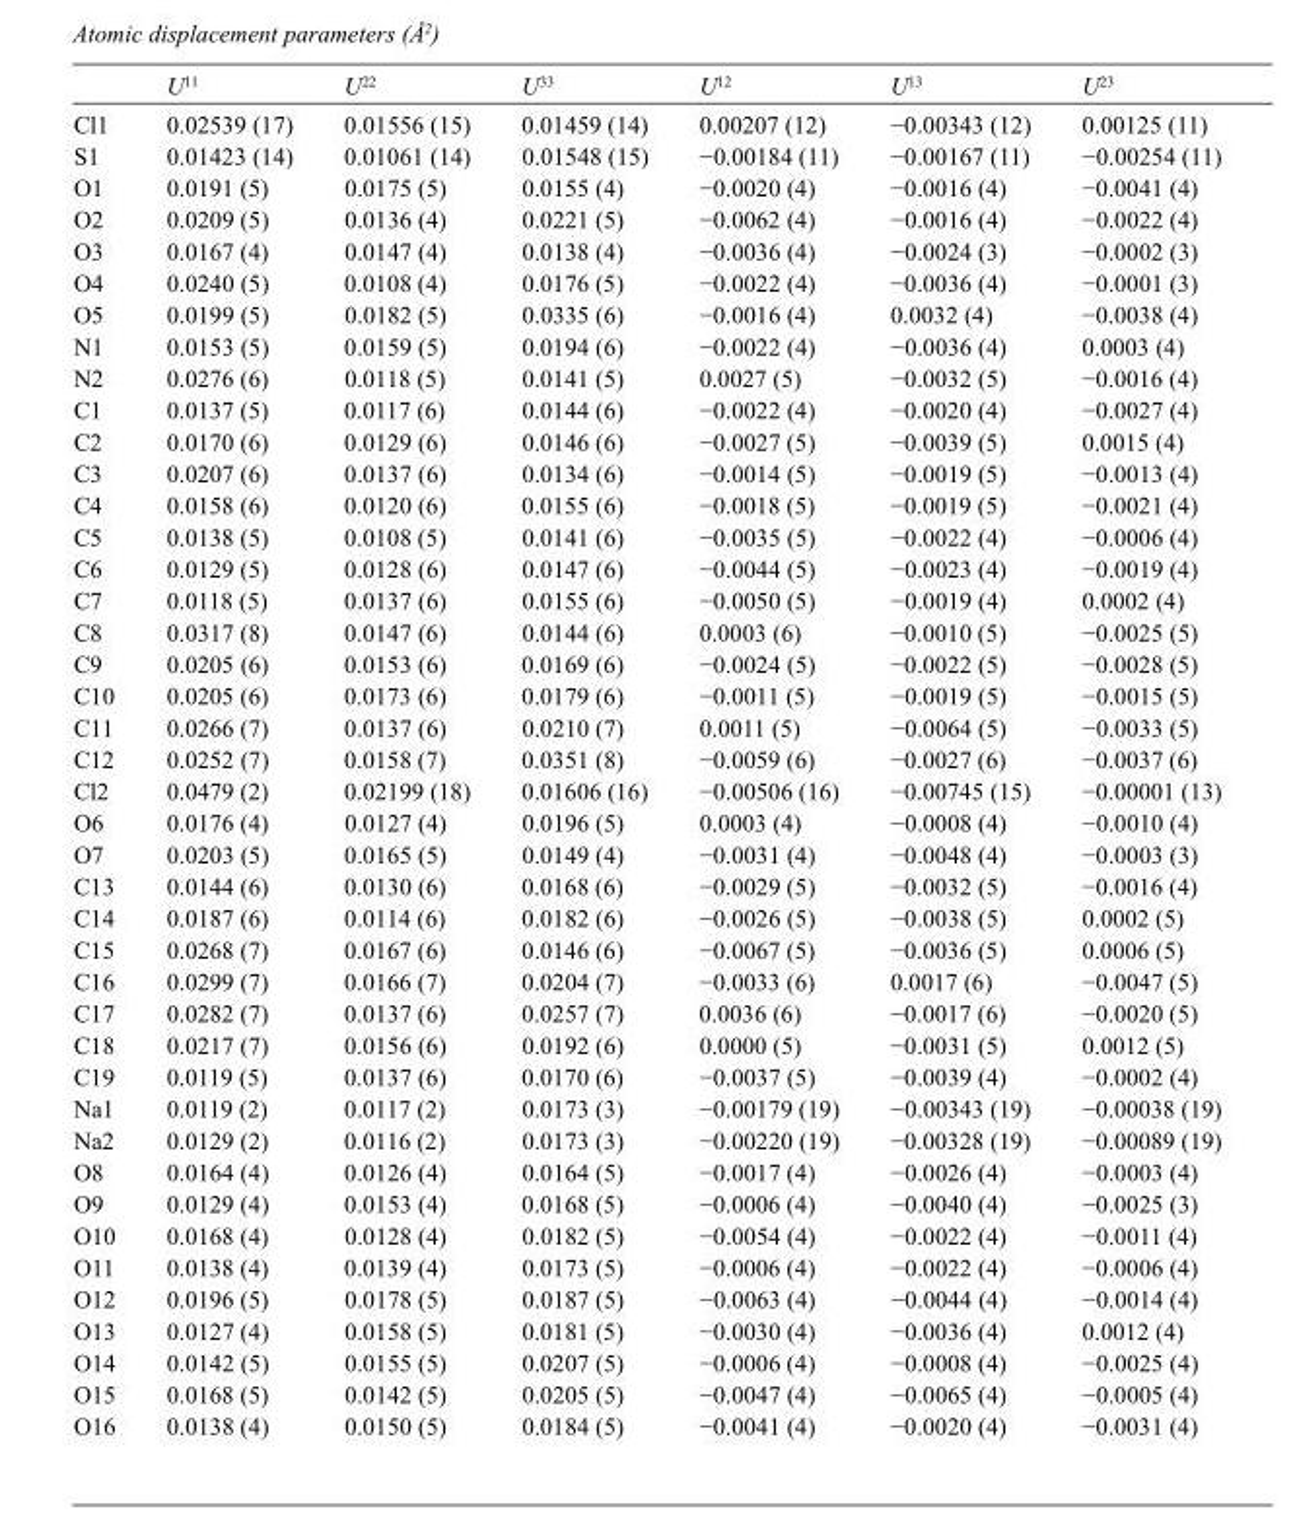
<table><thead><tr><td></td><td>U<sup>11</sup></td><td>U<sup>22</sup></td><td>U<sup>33</sup></td><td>U<sup>12</sup></td><td>U<sup>13</sup></td><td>U<sup>23</sup></td></tr></thead><tbody><tr><td>Cl1</td><td>0.02539 (17)</td><td>0.01556 (15)</td><td>0.01459 (14)</td><td>0.00207 (12)</td><td>−0.00343 (12)</td><td>0.00125 (11)</td></tr><tr><td>S1</td><td>0.01423 (14)</td><td>0.01061 (14)</td><td>0.01548 (15)</td><td>−0.00184 (11)</td><td>−0.00167 (11)</td><td>−0.00254 (11)</td></tr><tr><td>O1</td><td>0.0191 (5)</td><td>0.0175 (5)</td><td>0.0155 (4)</td><td>−0.0020 (4)</td><td>−0.0016 (4)</td><td>−0.0041 (4)</td></tr><tr><td>O2</td><td>0.0209 (5)</td><td>0.0136 (4)</td><td>0.0221 (5)</td><td>−0.0062 (4)</td><td>−0.0016 (4)</td><td>−0.0022 (4)</td></tr><tr><td>O3</td><td>0.0167 (4)</td><td>0.0147 (4)</td><td>0.0138 (4)</td><td>−0.0036 (4)</td><td>−0.0024 (3)</td><td>−0.0002 (3)</td></tr><tr><td>O4</td><td>0.0240 (5)</td><td>0.0108 (4)</td><td>0.0176 (5)</td><td>−0.0022 (4)</td><td>−0.0036 (4)</td><td>−0.0001 (3)</td></tr><tr><td>O5</td><td>0.0199 (5)</td><td>0.0182 (5)</td><td>0.0335 (6)</td><td>−0.0016 (4)</td><td>0.0032 (4)</td><td>−0.0038 (4)</td></tr><tr><td>N1</td><td>0.0153 (5)</td><td>0.0159 (5)</td><td>0.0194 (6)</td><td>−0.0022 (4)</td><td>−0.0036 (4)</td><td>0.0003 (4)</td></tr><tr><td>N2</td><td>0.0276 (6)</td><td>0.0118 (5)</td><td>0.0141 (5)</td><td>0.0027 (5)</td><td>−0.0032 (5)</td><td>−0.0016 (4)</td></tr><tr><td>C1</td><td>0.0137 (5)</td><td>0.0117 (6)</td><td>0.0144 (6)</td><td>−0.0022 (4)</td><td>−0.0020 (4)</td><td>−0.0027 (4)</td></tr><tr><td>C2</td><td>0.0170 (6)</td><td>0.0129 (6)</td><td>0.0146 (6)</td><td>−0.0027 (5)</td><td>−0.0039 (5)</td><td>0.0015 (4)</td></tr><tr><td>C3</td><td>0.0207 (6)</td><td>0.0137 (6)</td><td>0.0134 (6)</td><td>−0.0014 (5)</td><td>−0.0019 (5)</td><td>−0.0013 (4)</td></tr><tr><td>C4</td><td>0.0158 (6)</td><td>0.0120 (6)</td><td>0.0155 (6)</td><td>−0.0018 (5)</td><td>−0.0019 (5)</td><td>−0.0021 (4)</td></tr><tr><td>C5</td><td>0.0138 (5)</td><td>0.0108 (5)</td><td>0.0141 (6)</td><td>−0.0035 (5)</td><td>−0.0022 (4)</td><td>−0.0006 (4)</td></tr><tr><td>C6</td><td>0.0129 (5)</td><td>0.0128 (6)</td><td>0.0147 (6)</td><td>−0.0044 (5)</td><td>−0.0023 (4)</td><td>−0.0019 (4)</td></tr><tr><td>C7</td><td>0.0118 (5)</td><td>0.0137 (6)</td><td>0.0155 (6)</td><td>−0.0050 (5)</td><td>−0.0019 (4)</td><td>0.0002 (4)</td></tr><tr><td>C8</td><td>0.0317 (8)</td><td>0.0147 (6)</td><td>0.0144 (6)</td><td>0.0003 (6)</td><td>−0.0010 (5)</td><td>−0.0025 (5)</td></tr><tr><td>C9</td><td>0.0205 (6)</td><td>0.0153 (6)</td><td>0.0169 (6)</td><td>−0.0024 (5)</td><td>−0.0022 (5)</td><td>−0.0028 (5)</td></tr><tr><td>C10</td><td>0.0205 (6)</td><td>0.0173 (6)</td><td>0.0179 (6)</td><td>−0.0011 (5)</td><td>−0.0019 (5)</td><td>−0.0015 (5)</td></tr><tr><td>C11</td><td>0.0266 (7)</td><td>0.0137 (6)</td><td>0.0210 (7)</td><td>0.0011 (5)</td><td>−0.0064 (5)</td><td>−0.0033 (5)</td></tr><tr><td>C12</td><td>0.0252 (7)</td><td>0.0158 (7)</td><td>0.0351 (8)</td><td>−0.0059 (6)</td><td>−0.0027 (6)</td><td>−0.0037 (6)</td></tr><tr><td>Cl2</td><td>0.0479 (2)</td><td>0.02199 (18)</td><td>0.01606 (16)</td><td>−0.00506 (16)</td><td>−0.00745 (15)</td><td>−0.00001 (13)</td></tr><tr><td>O6</td><td>0.0176 (4)</td><td>0.0127 (4)</td><td>0.0196 (5)</td><td>0.0003 (4)</td><td>−0.0008 (4)</td><td>−0.0010 (4)</td></tr><tr><td>O7</td><td>0.0203 (5)</td><td>0.0165 (5)</td><td>0.0149 (4)</td><td>−0.0031 (4)</td><td>−0.0048 (4)</td><td>−0.0003 (3)</td></tr><tr><td>C13</td><td>0.0144 (6)</td><td>0.0130 (6)</td><td>0.0168 (6)</td><td>−0.0029 (5)</td><td>−0.0032 (5)</td><td>−0.0016 (4)</td></tr><tr><td>C14</td><td>0.0187 (6)</td><td>0.0114 (6)</td><td>0.0182 (6)</td><td>−0.0026 (5)</td><td>−0.0038 (5)</td><td>0.0002 (5)</td></tr><tr><td>C15</td><td>0.0268 (7)</td><td>0.0167 (6)</td><td>0.0146 (6)</td><td>−0.0067 (5)</td><td>−0.0036 (5)</td><td>0.0006 (5)</td></tr><tr><td>C16</td><td>0.0299 (7)</td><td>0.0166 (7)</td><td>0.0204 (7)</td><td>−0.0033 (6)</td><td>0.0017 (6)</td><td>−0.0047 (5)</td></tr><tr><td>C17</td><td>0.0282 (7)</td><td>0.0137 (6)</td><td>0.0257 (7)</td><td>0.0036 (6)</td><td>−0.0017 (6)</td><td>−0.0020 (5)</td></tr><tr><td>C18</td><td>0.0217 (7)</td><td>0.0156 (6)</td><td>0.0192 (6)</td><td>0.0000 (5)</td><td>−0.0031 (5)</td><td>0.0012 (5)</td></tr><tr><td>C19</td><td>0.0119 (5)</td><td>0.0137 (6)</td><td>0.0170 (6)</td><td>−0.0037 (5)</td><td>−0.0039 (4)</td><td>−0.0002 (4)</td></tr><tr><td>Na1</td><td>0.0119 (2)</td><td>0.0117 (2)</td><td>0.0173 (3)</td><td>−0.00179 (19)</td><td>−0.00343 (19)</td><td>−0.00038 (19)</td></tr><tr><td>Na2</td><td>0.0129 (2)</td><td>0.0116 (2)</td><td>0.0173 (3)</td><td>−0.00220 (19)</td><td>−0.00328 (19)</td><td>−0.00089 (19)</td></tr><tr><td>O8</td><td>0.0164 (4)</td><td>0.0126 (4)</td><td>0.0164 (5)</td><td>−0.0017 (4)</td><td>−0.0026 (4)</td><td>−0.0003 (4)</td></tr><tr><td>O9</td><td>0.0129 (4)</td><td>0.0153 (4)</td><td>0.0168 (5)</td><td>−0.0006 (4)</td><td>−0.0040 (4)</td><td>−0.0025 (3)</td></tr><tr><td>O10</td><td>0.0168 (4)</td><td>0.0128 (4)</td><td>0.0182 (5)</td><td>−0.0054 (4)</td><td>−0.0022 (4)</td><td>−0.0011 (4)</td></tr><tr><td>O11</td><td>0.0138 (4)</td><td>0.0139 (4)</td><td>0.0173 (5)</td><td>−0.0006 (4)</td><td>−0.0022 (4)</td><td>−0.0006 (4)</td></tr><tr><td>O12</td><td>0.0196 (5)</td><td>0.0178 (5)</td><td>0.0187 (5)</td><td>−0.0063 (4)</td><td>−0.0044 (4)</td><td>−0.0014 (4)</td></tr><tr><td>O13</td><td>0.0127 (4)</td><td>0.0158 (5)</td><td>0.0181 (5)</td><td>−0.0030 (4)</td><td>−0.0036 (4)</td><td>0.0012 (4)</td></tr><tr><td>O14</td><td>0.0142 (5)</td><td>0.0155 (5)</td><td>0.0207 (5)</td><td>−0.0006 (4)</td><td>−0.0008 (4)</td><td>−0.0025 (4)</td></tr><tr><td>O15</td><td>0.0168 (5)</td><td>0.0142 (5)</td><td>0.0205 (5)</td><td>−0.0047 (4)</td><td>−0.0065 (4)</td><td>−0.0005 (4)</td></tr><tr><td>O16</td><td>0.0138 (4)</td><td>0.0150 (5)</td><td>0.0184 (5)</td><td>−0.0041 (4)</td><td>−0.0020 (4)</td><td>−0.0031 (4)</td></tr></tbody></table>